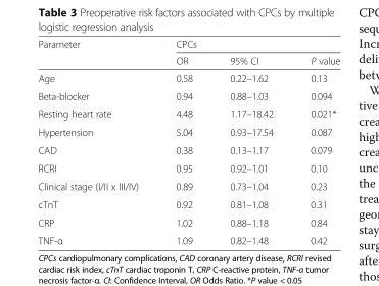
<table><thead><tr><td rowspan="2">Parameter</td><td colspan="3">CPCs</td></tr><tr><td>OR</td><td>95% CI</td><td>P value</td></tr></thead><tbody><tr><td>Age</td><td>0.58</td><td>0.22–1.62</td><td>0.13</td></tr><tr><td>Beta-blocker</td><td>0.94</td><td>0.88–1.03</td><td>0.094</td></tr><tr><td>Resting heart rate</td><td>4.48</td><td>1.17–18.42</td><td>0.021*</td></tr><tr><td>Hypertension</td><td>5.04</td><td>0.93–17.54</td><td>0.087</td></tr><tr><td>CAD</td><td>0.38</td><td>0.13–1.17</td><td>0.079</td></tr><tr><td>RCRI</td><td>0.95</td><td>0.92–1.01</td><td>0.10</td></tr><tr><td>Clinical stage (I/II x III/IV)</td><td>0.89</td><td>0.73–1.04</td><td>0.23</td></tr><tr><td>cTnT</td><td>0.92</td><td>0.81–1.08</td><td>0.31</td></tr><tr><td>CRP</td><td>1.02</td><td>0.88–1.18</td><td>0.84</td></tr><tr><td>TNF-α</td><td>1.09</td><td>0.82–1.48</td><td>0.42</td></tr></tbody></table>